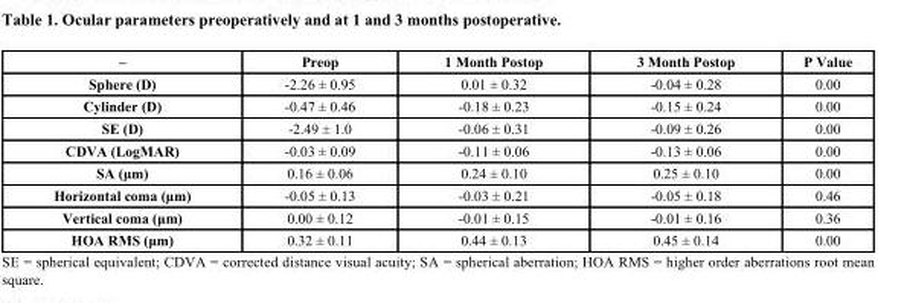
<table><thead><tr><td>–</td><td>Preop</td><td>1 Month Postop</td><td>3 Month Postop</td><td>P Value</td></tr></thead><tbody><tr><td>Sphere (D)</td><td>-2.26 ± 0.95</td><td>0.01 ± 0.32</td><td>-0.04 ± 0.28</td><td>0.00</td></tr><tr><td>Cylinder (D)</td><td>-0.47 ± 0.46</td><td>-0.18 ± 0.23</td><td>-0.15 ± 0.24</td><td>0.00</td></tr><tr><td>SE (D)</td><td>-2.49 ± 1.0</td><td>-0.06 ± 0.31</td><td>-0.09 ± 0.26</td><td>0.00</td></tr><tr><td>CDVA (LogMAR)</td><td>-0.03 ± 0.09</td><td>-0.11 ± 0.06</td><td>-0.13 ± 0.06</td><td>0.00</td></tr><tr><td>SA (μm)</td><td>0.16 ± 0.06</td><td>0.24 ± 0.10</td><td>0.25 ± 0.10</td><td>0.00</td></tr><tr><td>Horizontal coma (μm)</td><td>-0.05 ± 0.13</td><td>-0.03 ± 0.21</td><td>-0.05 ± 0.18</td><td>0.46</td></tr><tr><td>Vertical coma (μm)</td><td>0.00 ± 0.12</td><td>-0.01 ± 0.15</td><td>-0.01 ± 0.16</td><td>0.36</td></tr><tr><td>HOA RMS (μm)</td><td>0.32 ± 0.11</td><td>0.44 ± 0.13</td><td>0.45 ± 0.14</td><td>0.00</td></tr></tbody></table>